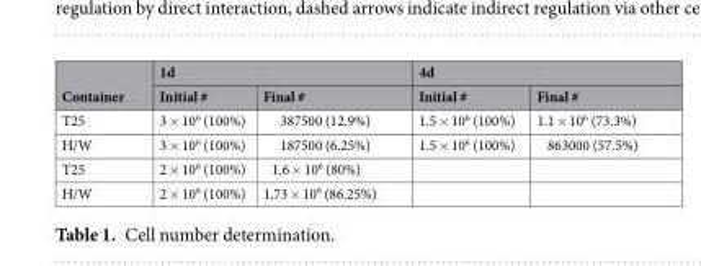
<table><thead><tr><td rowspan="2">Container</td><td colspan="2">1d</td><td colspan="2">4d</td></tr><tr><td>Initial #</td><td>Final #</td><td>Initial #</td><td>Final #</td></tr></thead><tbody><tr><td>T25</td><td>3 × 10<sup>6</sup> (100%)</td><td>387500 (12.9%)</td><td>1.5 × 10<sup>6</sup> (100%)</td><td>1.1 × 10<sup>6</sup> (73.3%)</td></tr><tr><td>H/W</td><td>3 × 10<sup>6</sup> (100%)</td><td>187500 (6.25%)</td><td>1.5 × 10<sup>6</sup> (100%)</td><td>863000 (57.5%)</td></tr><tr><td>T25</td><td>2 × 10<sup>6</sup> (100%)</td><td>1.6 × 10<sup>6</sup> (80%)</td><td></td><td></td></tr><tr><td>H/W</td><td>2 × 10<sup>6</sup> (100%)</td><td>1,73 × 10<sup>6</sup> (86.25%)</td><td></td><td></td></tr></tbody></table>